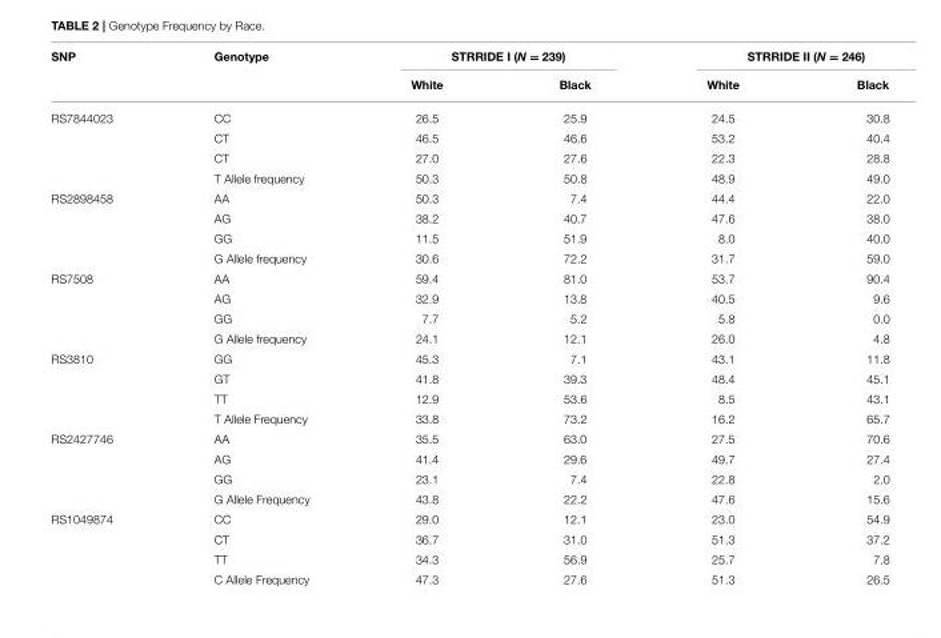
<table><thead><tr><td rowspan="2">SNP</td><td rowspan="2">Genotype</td><td colspan="2">STRRIDE I (N = 239)</td><td colspan="2">STRRIDE II (N = 246)</td></tr><tr><td>White</td><td>Black</td><td>White</td><td>Black</td></tr></thead><tbody><tr><td rowspan="4">RS7844023</td><td>CC</td><td>26.5</td><td>25.9</td><td>24.5</td><td>30.8</td></tr><tr><td>CT</td><td>46.5</td><td>46.6</td><td>53.2</td><td>40.4</td></tr><tr><td>CT</td><td>27.0</td><td>27.6</td><td>22.3</td><td>28.8</td></tr><tr><td>T Allele frequency</td><td>50.3</td><td>50.8</td><td>48.9</td><td>49.0</td></tr><tr><td rowspan="4">RS2898458</td><td>AA</td><td>50.3</td><td>7.4</td><td>44.4</td><td>22.0</td></tr><tr><td>AG</td><td>38.2</td><td>40.7</td><td>47.6</td><td>38.0</td></tr><tr><td>GG</td><td>11.5</td><td>51.9</td><td>8.0</td><td>40.0</td></tr><tr><td>G Allele frequency</td><td>30.6</td><td>72.2</td><td>31.7</td><td>59.0</td></tr><tr><td rowspan="4">RS7508</td><td>AA</td><td>59.4</td><td>81.0</td><td>53.7</td><td>90.4</td></tr><tr><td>AG</td><td>32.9</td><td>13.8</td><td>40.5</td><td>9.6</td></tr><tr><td>GG</td><td>7.7</td><td>5.2</td><td>5.8</td><td>0.0</td></tr><tr><td>G Allele frequency</td><td>24.1</td><td>12.1</td><td>26.0</td><td>4.8</td></tr><tr><td rowspan="4">RS3810</td><td>GG</td><td>45.3</td><td>7.1</td><td>43.1</td><td>11.8</td></tr><tr><td>GT</td><td>41.8</td><td>39.3</td><td>48.4</td><td>45.1</td></tr><tr><td>TT</td><td>12.9</td><td>53.6</td><td>8.5</td><td>43.1</td></tr><tr><td>T Allele Frequency</td><td>33.8</td><td>73.2</td><td>16.2</td><td>65.7</td></tr><tr><td rowspan="4">RS2427746</td><td>AA</td><td>35.5</td><td>63.0</td><td>27.5</td><td>70.6</td></tr><tr><td>AG</td><td>41.4</td><td>29.6</td><td>49.7</td><td>27.4</td></tr><tr><td>GG</td><td>23.1</td><td>7.4</td><td>22.8</td><td>2.0</td></tr><tr><td>G Allele Frequency</td><td>43.8</td><td>22.2</td><td>47.6</td><td>15.6</td></tr><tr><td rowspan="4">RS1049874</td><td>CC</td><td>29.0</td><td>12.1</td><td>23.0</td><td>54.9</td></tr><tr><td>CT</td><td>36.7</td><td>31.0</td><td>51.3</td><td>37.2</td></tr><tr><td>TT</td><td>34.3</td><td>56.9</td><td>25.7</td><td>7.8</td></tr><tr><td>C Allele Frequency</td><td>47.3</td><td>27.6</td><td>51.3</td><td>26.5</td></tr></tbody></table>